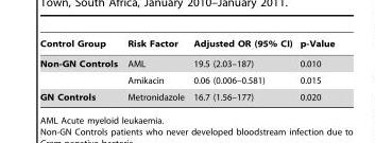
<table><thead><tr><td>Control Group</td><td>Risk Factor</td><td>Adjusted OR (95% CI)</td><td>p-Value</td></tr></thead><tbody><tr><td rowspan="2">Non-GN Controls</td><td>AML</td><td>19.5 (2.03–187)</td><td>0.010</td></tr><tr><td>Amikacin</td><td>0.06 (0.006–0.581)</td><td>0.015</td></tr><tr><td>GN Controls</td><td>Metronidazole</td><td>16.7 (1.56–177)</td><td>0.020</td></tr></tbody></table>